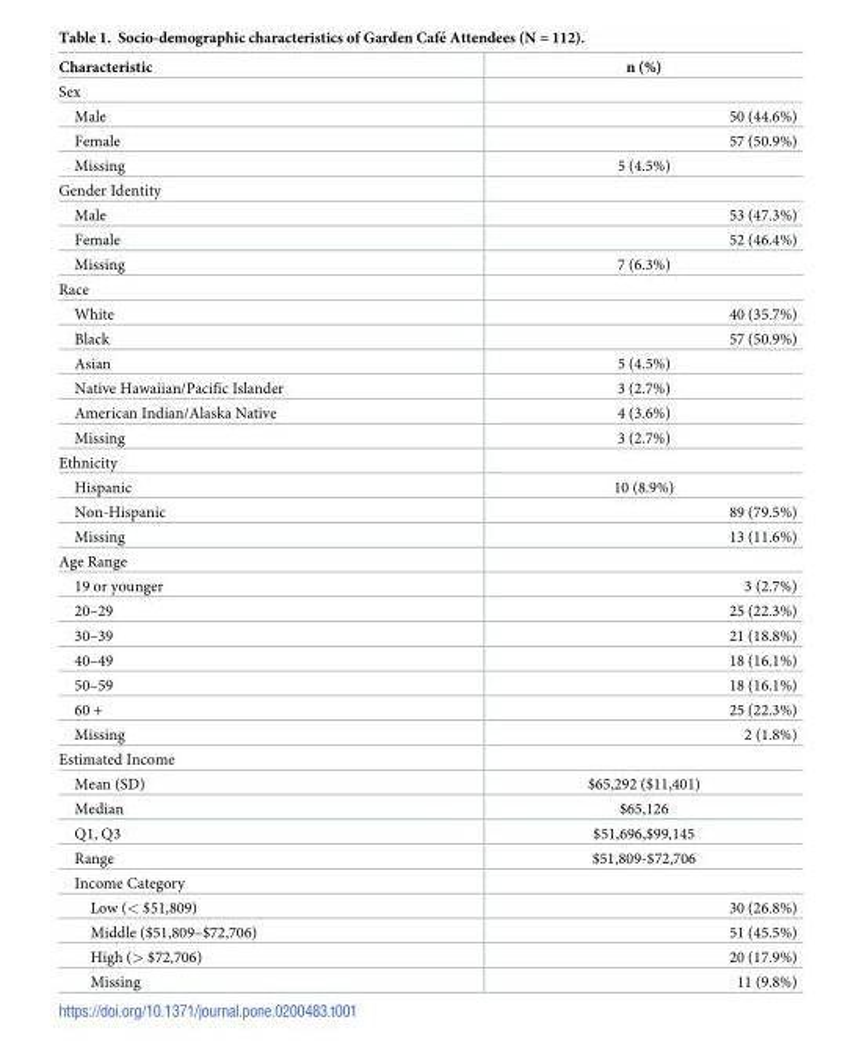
<table><thead><tr><td>Characteristic</td><td>n (%)</td></tr></thead><tbody><tr><td colspan="2">Sex</td></tr><tr><td>Male</td><td>50 (44.6%)</td></tr><tr><td>Female</td><td>57 (50.9%)</td></tr><tr><td>Missing</td><td>5 (4.5%)</td></tr><tr><td colspan="2">Gender Identity</td></tr><tr><td>Male</td><td>53 (47.3%)</td></tr><tr><td>Female</td><td>52 (46.4%)</td></tr><tr><td>Missing</td><td>7 (6.3%)</td></tr><tr><td colspan="2">Race</td></tr><tr><td>White</td><td>40 (35.7%)</td></tr><tr><td>Black</td><td>57 (50.9%)</td></tr><tr><td>Asian</td><td>5 (4.5%)</td></tr><tr><td>Native Hawaiian/Pacific Islander</td><td>3 (2.7%)</td></tr><tr><td>American Indian/Alaska Native</td><td>4 (3.6%)</td></tr><tr><td>Missing</td><td>3 (2.7%)</td></tr><tr><td colspan="2">Ethnicity</td></tr><tr><td>Hispanic</td><td>10 (8.9%)</td></tr><tr><td>Non-Hispanic</td><td>89 (79.5%)</td></tr><tr><td>Missing</td><td>13 (11.6%)</td></tr><tr><td colspan="2">Age Range</td></tr><tr><td>19 or younger</td><td>3 (2.7%)</td></tr><tr><td>20–29</td><td>25 (22.3%)</td></tr><tr><td>30–39</td><td>21 (18.8%)</td></tr><tr><td>40–49</td><td>18 (16.1%)</td></tr><tr><td>50–59</td><td>18 (16.1%)</td></tr><tr><td>60 +</td><td>25 (22.3%)</td></tr><tr><td>Missing</td><td>2 (1.8%)</td></tr><tr><td colspan="2">Estimated Income</td></tr><tr><td>Mean (SD)</td><td>$65,292 ($11,401)</td></tr><tr><td>Median</td><td>$65,126</td></tr><tr><td>Q1, Q3</td><td>$51,696,$99,145</td></tr><tr><td>Range</td><td>$51,809-$72,706</td></tr><tr><td colspan="2">Income Category</td></tr><tr><td>Low (&lt; $51,809)</td><td>30 (26.8%)</td></tr><tr><td>Middle ($51,809–$72,706)</td><td>51 (45.5%)</td></tr><tr><td>High (&gt; $72,706)</td><td>20 (17.9%)</td></tr><tr><td>Missing</td><td>11 (9.8%)</td></tr></tbody></table>